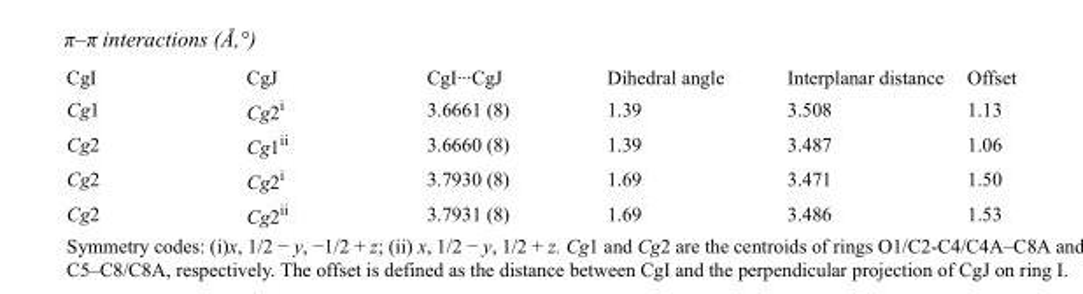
<table><tbody><tr><td>CgI</td><td>CgJ</td><td>CgI···CgJ</td><td>Dihedral angle</td><td>Interplanar distance</td><td>Offset</td></tr><tr><td>Cg1</td><td>Cg2<sup>i</sup></td><td>3.6661 (8)</td><td>1.39</td><td>3.508</td><td>1.13</td></tr><tr><td>Cg2</td><td>Cg1<sup>ii</sup></td><td>3.6660 (8)</td><td>1.39</td><td>3.487</td><td>1.06</td></tr><tr><td>Cg2</td><td>Cg2<sup>i</sup></td><td>3.7930 (8)</td><td>1.69</td><td>3.471</td><td>1.50</td></tr><tr><td>Cg2</td><td>Cg2<sup>ii</sup></td><td>3.7931 (8)</td><td>1.69</td><td>3.486</td><td>1.53</td></tr></tbody></table>